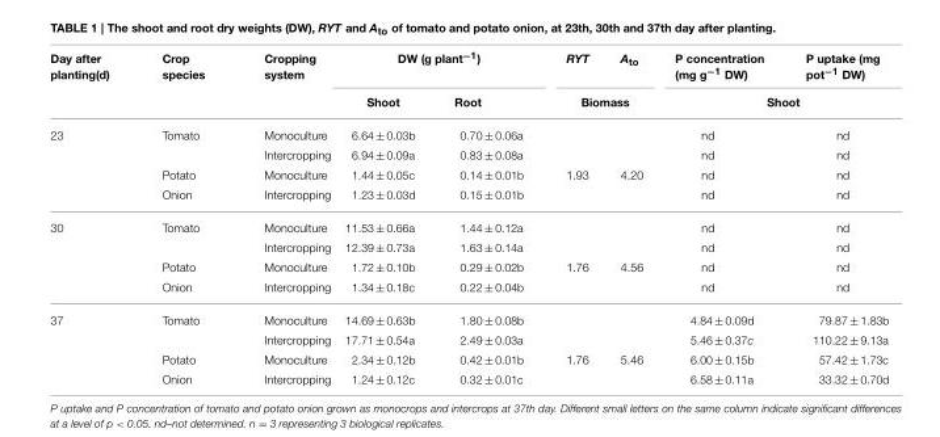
<table><thead><tr><td rowspan="2">Day after planting(d)</td><td rowspan="2">Crop species</td><td rowspan="2">Cropping system</td><td colspan="2">DW (g plant<sup>−1</sup>)</td><td>RYT</td><td>A<sub>to</sub></td><td>P concentration (mg g<sup>−1</sup> DW)</td><td>P uptake (mg pot<sup>−1</sup> DW)</td></tr><tr><td>Shoot</td><td>Root</td><td colspan="2">Biomass</td><td colspan="2">Shoot</td></tr></thead><tbody><tr><td rowspan="4">23</td><td>Tomato</td><td>Monoculture</td><td>6.64 ± 0.03b</td><td>0.70 ± 0.06a</td><td></td><td></td><td>nd</td><td>nd</td></tr><tr><td></td><td>Intercropping</td><td>6.94 ± 0.09a</td><td>0.83 ± 0.08a</td><td></td><td></td><td>nd</td><td>nd</td></tr><tr><td>Potato</td><td>Monoculture</td><td>1.44 ± 0.05c</td><td>0.14 ± 0.01b</td><td>1.93</td><td>4.20</td><td>nd</td><td>nd</td></tr><tr><td>Onion</td><td>Intercropping</td><td>1.23 ± 0.03d</td><td>0.15 ± 0.01b</td><td></td><td></td><td>nd</td><td>nd</td></tr><tr><td rowspan="4">30</td><td>Tomato</td><td>Monoculture</td><td>11.53 ± 0.66a</td><td>1.44 ± 0.12a</td><td></td><td></td><td>nd</td><td>nd</td></tr><tr><td></td><td>Intercropping</td><td>12.39 ± 0.73a</td><td>1.63 ± 0.14a</td><td></td><td></td><td>nd</td><td>nd</td></tr><tr><td>Potato</td><td>Monoculture</td><td>1.72 ± 0.10b</td><td>0.29 ± 0.02b</td><td>1.76</td><td>4.56</td><td>nd</td><td>nd</td></tr><tr><td>Onion</td><td>Intercropping</td><td>1.34 ± 0.18c</td><td>0.22 ± 0.04b</td><td></td><td></td><td>nd</td><td>nd</td></tr><tr><td rowspan="4">37</td><td>Tomato</td><td>Monoculture</td><td>14.69 ± 0.63b</td><td>1.80 ± 0.08b</td><td></td><td></td><td>4.84 ± 0.09d</td><td>79.87 ± 1.83b</td></tr><tr><td></td><td>Intercropping</td><td>17.71 ± 0.54a</td><td>2.49 ± 0.03a</td><td></td><td></td><td>5.46 ± 0.37c</td><td>110.22 ± 9.13a</td></tr><tr><td>Potato</td><td>Monoculture</td><td>2.34 ± 0.12b</td><td>0.42 ± 0.01b</td><td>1.76</td><td>5.46</td><td>6.00 ± 0.15b</td><td>57.42 ± 1.73c</td></tr><tr><td>Onion</td><td>Intercropping</td><td>1.24 ± 0.12c</td><td>0.32 ± 0.01c</td><td></td><td></td><td>6.58 ± 0.11a</td><td>33.32 ± 0.70d</td></tr></tbody></table>